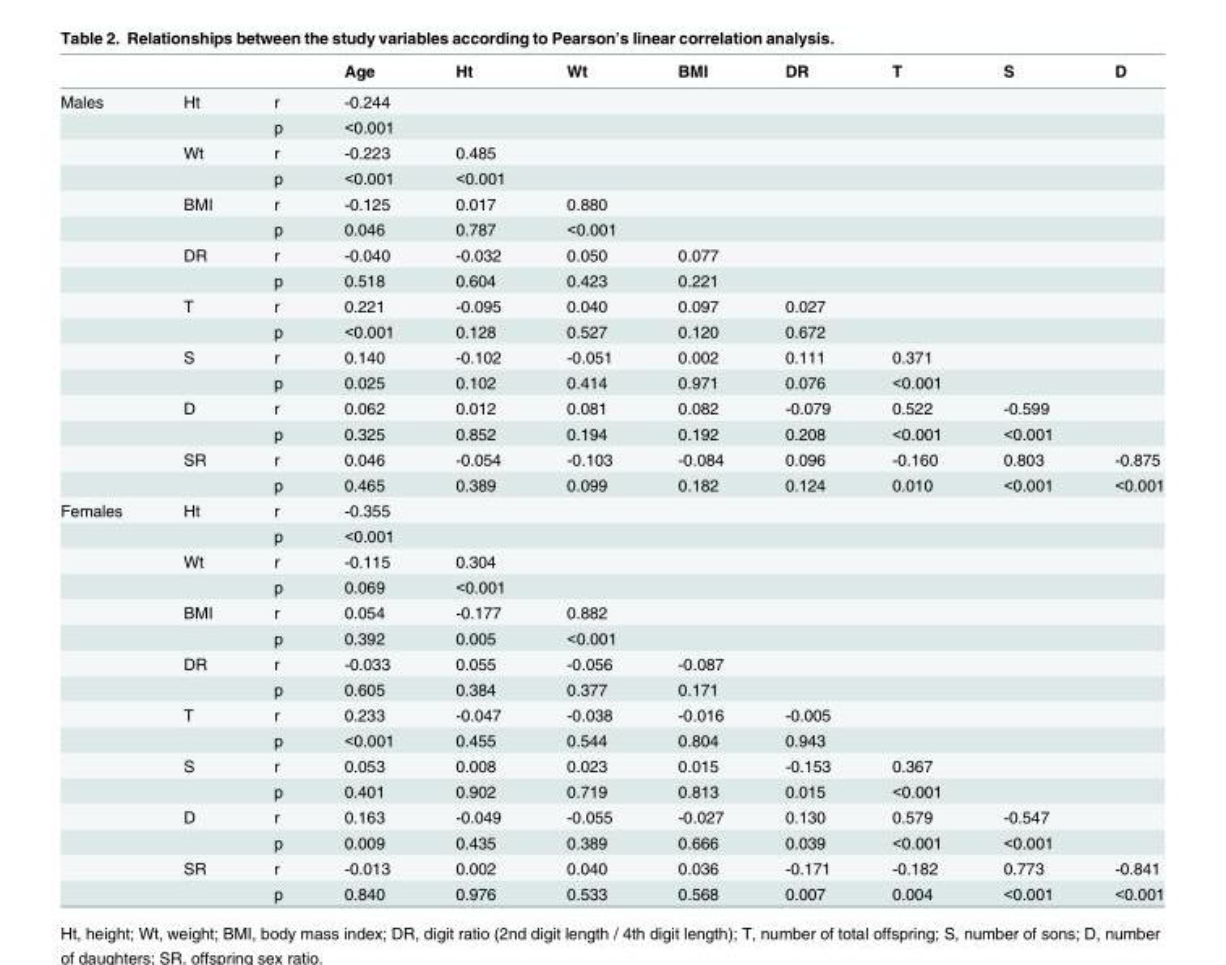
<table><thead><tr><td></td><td></td><td></td><td>Age</td><td>Ht</td><td>Wt</td><td>BMI</td><td>DR</td><td>T</td><td>S</td><td>D</td></tr></thead><tbody><tr><td rowspan="16">Males</td><td>Ht</td><td>r</td><td>-0.244</td><td></td><td></td><td></td><td></td><td></td><td></td><td></td></tr><tr><td></td><td>p</td><td>&lt;0.001</td><td></td><td></td><td></td><td></td><td></td><td></td><td></td></tr><tr><td>Wt</td><td>r</td><td>-0.223</td><td>0.485</td><td></td><td></td><td></td><td></td><td></td><td></td></tr><tr><td></td><td>p</td><td>&lt;0.001</td><td>&lt;0.001</td><td></td><td></td><td></td><td></td><td></td><td></td></tr><tr><td>BMI</td><td>r</td><td>-0.125</td><td>0.017</td><td>0.880</td><td></td><td></td><td></td><td></td><td></td></tr><tr><td></td><td>p</td><td>0.046</td><td>0.787</td><td>&lt;0.001</td><td></td><td></td><td></td><td></td><td></td></tr><tr><td>DR</td><td>r</td><td>-0.040</td><td>-0.032</td><td>0.050</td><td>0.077</td><td></td><td></td><td></td><td></td></tr><tr><td></td><td>p</td><td>0.518</td><td>0.604</td><td>0.423</td><td>0.221</td><td></td><td></td><td></td><td></td></tr><tr><td>T</td><td>r</td><td>0.221</td><td>-0.095</td><td>0.040</td><td>0.097</td><td>0.027</td><td></td><td></td><td></td></tr><tr><td></td><td>p</td><td>&lt;0.001</td><td>0.128</td><td>0.527</td><td>0.120</td><td>0.672</td><td></td><td></td><td></td></tr><tr><td>S</td><td>r</td><td>0.140</td><td>-0.102</td><td>-0.051</td><td>0.002</td><td>0.111</td><td>0.371</td><td></td><td></td></tr><tr><td></td><td>p</td><td>0.025</td><td>0.102</td><td>0.414</td><td>0.971</td><td>0.076</td><td>&lt;0.001</td><td></td><td></td></tr><tr><td>D</td><td>r</td><td>0.062</td><td>0.012</td><td>0.081</td><td>0.082</td><td>-0.079</td><td>0.522</td><td>-0.599</td><td></td></tr><tr><td></td><td>p</td><td>0.325</td><td>0.852</td><td>0.194</td><td>0.192</td><td>0.208</td><td>&lt;0.001</td><td>&lt;0.001</td><td></td></tr><tr><td>SR</td><td>r</td><td>0.046</td><td>-0.054</td><td>-0.103</td><td>-0.084</td><td>0.096</td><td>-0.160</td><td>0.803</td><td>-0.875</td></tr><tr><td></td><td>p</td><td>0.465</td><td>0.389</td><td>0.099</td><td>0.182</td><td>0.124</td><td>0.010</td><td>&lt;0.001</td><td>&lt;0.001</td></tr><tr><td rowspan="16">Females</td><td>Ht</td><td>r</td><td>-0.355</td><td></td><td></td><td></td><td></td><td></td><td></td><td></td></tr><tr><td></td><td>p</td><td>&lt;0.001</td><td></td><td></td><td></td><td></td><td></td><td></td><td></td></tr><tr><td>Wt</td><td>r</td><td>-0.115</td><td>0.304</td><td></td><td></td><td></td><td></td><td></td><td></td></tr><tr><td></td><td>p</td><td>0.069</td><td>&lt;0.001</td><td></td><td></td><td></td><td></td><td></td><td></td></tr><tr><td>BMI</td><td>r</td><td>0.054</td><td>-0.177</td><td>0.882</td><td></td><td></td><td></td><td></td><td></td></tr><tr><td></td><td>p</td><td>0.392</td><td>0.005</td><td>&lt;0.001</td><td></td><td></td><td></td><td></td><td></td></tr><tr><td>DR</td><td>r</td><td>-0.033</td><td>0.055</td><td>-0.056</td><td>-0.087</td><td></td><td></td><td></td><td></td></tr><tr><td></td><td>p</td><td>0.605</td><td>0.384</td><td>0.377</td><td>0.171</td><td></td><td></td><td></td><td></td></tr><tr><td>T</td><td>r</td><td>0.233</td><td>-0.047</td><td>-0.038</td><td>-0.016</td><td>-0.005</td><td></td><td></td><td></td></tr><tr><td></td><td>p</td><td>&lt;0.001</td><td>0.455</td><td>0.544</td><td>0.804</td><td>0.943</td><td></td><td></td><td></td></tr><tr><td>S</td><td>r</td><td>0.053</td><td>0.008</td><td>0.023</td><td>0.015</td><td>-0.153</td><td>0.367</td><td></td><td></td></tr><tr><td></td><td>p</td><td>0.401</td><td>0.902</td><td>0.719</td><td>0.813</td><td>0.015</td><td>&lt;0.001</td><td></td><td></td></tr><tr><td>D</td><td>r</td><td>0.163</td><td>-0.049</td><td>-0.055</td><td>-0.027</td><td>0.130</td><td>0.579</td><td>-0.547</td><td></td></tr><tr><td></td><td>p</td><td>0.009</td><td>0.435</td><td>0.389</td><td>0.666</td><td>0.039</td><td>&lt;0.001</td><td>&lt;0.001</td><td></td></tr><tr><td>SR</td><td>r</td><td>-0.013</td><td>0.002</td><td>0.040</td><td>0.036</td><td>-0.171</td><td>-0.182</td><td>0.773</td><td>-0.841</td></tr><tr><td></td><td>p</td><td>0.840</td><td>0.976</td><td>0.533</td><td>0.568</td><td>0.007</td><td>0.004</td><td>&lt;0.001</td><td>&lt;0.001</td></tr></tbody></table>